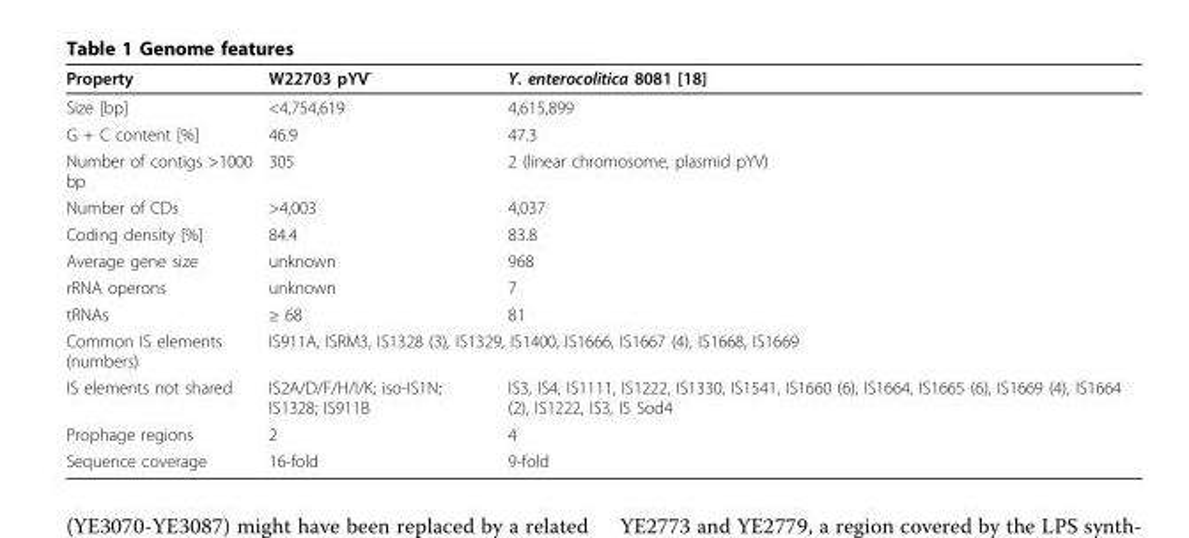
<table><thead><tr><td>Property</td><td>W22703 pYV<sup>-</sup></td><td>Y. enterocolitica 8081 [18]</td></tr></thead><tbody><tr><td>Size [bp]</td><td>&lt;4,754,619</td><td>4,615,899</td></tr><tr><td>G + C content [%]</td><td>46.9</td><td>47.3</td></tr><tr><td>Number of contigs &gt;1000 bp</td><td>305</td><td>2 (linear chromosome, plasmid pYV)</td></tr><tr><td>Number of CDs</td><td>&gt;4,003</td><td>4,037</td></tr><tr><td>Coding density [%]</td><td>84.4</td><td>83.8</td></tr><tr><td>Average gene size</td><td>unknown</td><td>968</td></tr><tr><td>rRNA operons</td><td>unknown</td><td>7</td></tr><tr><td>tRNAs</td><td>≥ 68</td><td>81</td></tr><tr><td>Common IS elements (numbers)</td><td colspan="2">IS911A, ISRM3, IS1328 (3), IS1329, IS1400, IS1666, IS1667 (4), IS1668, IS1669</td></tr><tr><td>IS elements not shared</td><td>IS2A/D/F/H/I/K; iso-IS1N; IS1328; IS911B</td><td>IS3, IS4, IS1111, IS1222, IS1330, IS1541, IS1660 (6), IS1664, IS1665 (6), IS1669 (4), IS1664 (2), IS1222, IS3, IS Sod4</td></tr><tr><td>Prophage regions</td><td>2</td><td>4</td></tr><tr><td>Sequence coverage</td><td>16-fold</td><td>9-fold</td></tr></tbody></table>